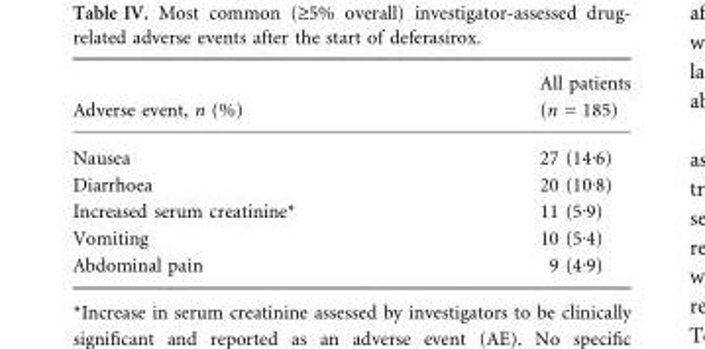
<table><thead><tr><td>Adverse event, n (%)</td><td>All patients (n = 185)</td></tr></thead><tbody><tr><td>Nausea</td><td>27 (14Æ6)</td></tr><tr><td>Diarrhoea</td><td>20 (10Æ8)</td></tr><tr><td>Increased serum creatinine*</td><td>11 (5Æ9)</td></tr><tr><td>Vomiting</td><td>10 (5Æ4)</td></tr><tr><td>Abdominal pain</td><td>9 (4Æ9)</td></tr></tbody></table>